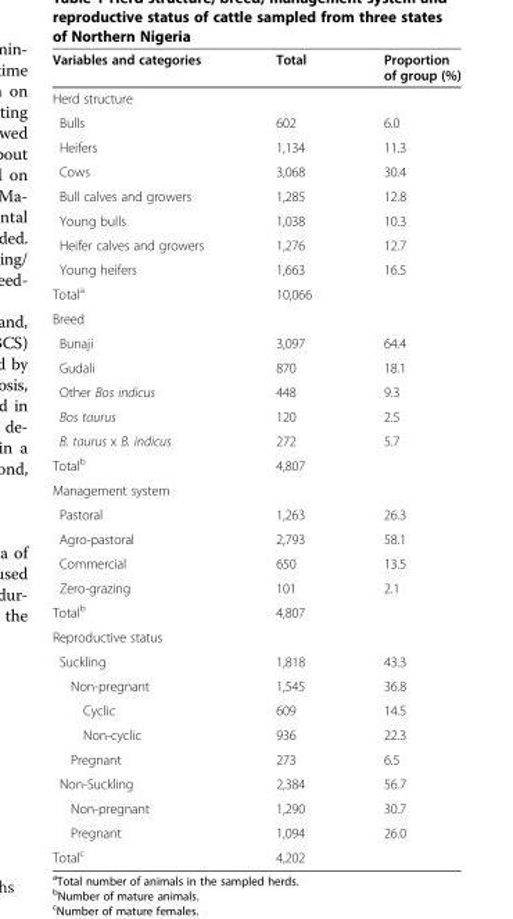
<table><thead><tr><td>Variables and categories</td><td>Total</td><td>Proportion of group (%)</td></tr></thead><tbody><tr><td colspan="3">Herd structure</td></tr><tr><td>Bulls</td><td>602</td><td>6.0</td></tr><tr><td>Heifers</td><td>1,134</td><td>11.3</td></tr><tr><td>Cows</td><td>3,068</td><td>30.4</td></tr><tr><td>Bull calves and growers</td><td>1,285</td><td>12.8</td></tr><tr><td>Young bulls</td><td>1,038</td><td>10.3</td></tr><tr><td>Heifer calves and growers</td><td>1,276</td><td>12.7</td></tr><tr><td>Young heifers</td><td>1,663</td><td>16.5</td></tr><tr><td>Total<sup>a</sup></td><td>10,066</td><td></td></tr><tr><td colspan="3">Breed</td></tr><tr><td>Bunaji</td><td>3,097</td><td>64.4</td></tr><tr><td>Gudali</td><td>870</td><td>18.1</td></tr><tr><td>Other Bos indicus</td><td>448</td><td>9.3</td></tr><tr><td>Bos taurus</td><td>120</td><td>2.5</td></tr><tr><td>B. taurus x B. indicus</td><td>272</td><td>5.7</td></tr><tr><td>Total<sup>b</sup></td><td>4,807</td><td></td></tr><tr><td colspan="3">Management system</td></tr><tr><td>Pastoral</td><td>1,263</td><td>26.3</td></tr><tr><td>Agro-pastoral</td><td>2,793</td><td>58.1</td></tr><tr><td>Commercial</td><td>650</td><td>13.5</td></tr><tr><td>Zero-grazing</td><td>101</td><td>2.1</td></tr><tr><td>Total<sup>b</sup></td><td>4,807</td><td></td></tr><tr><td colspan="3">Reproductive status</td></tr><tr><td>Suckling</td><td>1,818</td><td>43.3</td></tr><tr><td>Non-pregnant</td><td>1,545</td><td>36.8</td></tr><tr><td>Cyclic</td><td>609</td><td>14.5</td></tr><tr><td>Non-cyclic</td><td>936</td><td>22.3</td></tr><tr><td>Pregnant</td><td>273</td><td>6.5</td></tr><tr><td>Non-Suckling</td><td>2,384</td><td>56.7</td></tr><tr><td>Non-pregnant</td><td>1,290</td><td>30.7</td></tr><tr><td>Pregnant</td><td>1,094</td><td>26.0</td></tr><tr><td>Total<sup>c</sup></td><td>4,202</td><td></td></tr></tbody></table>